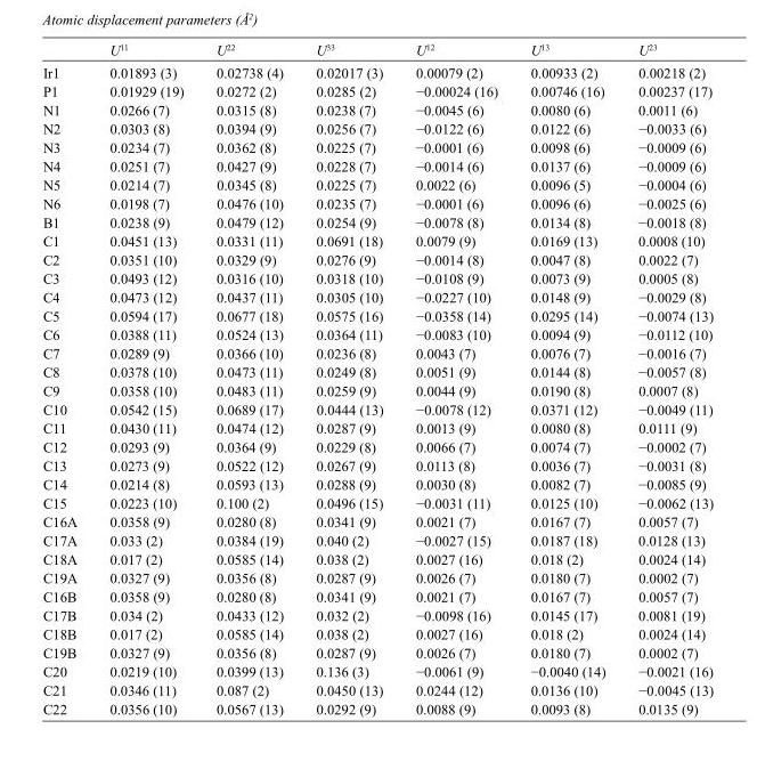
<table><thead><tr><td></td><td>U<sup>11</sup></td><td>U<sup>22</sup></td><td>U<sup>33</sup></td><td>U<sup>12</sup></td><td>U<sup>13</sup></td><td>U<sup>23</sup></td></tr></thead><tbody><tr><td>Ir1</td><td>0.01893 (3)</td><td>0.02738 (4)</td><td>0.02017 (3)</td><td>0.00079 (2)</td><td>0.00933 (2)</td><td>0.00218 (2)</td></tr><tr><td>P1</td><td>0.01929 (19)</td><td>0.0272 (2)</td><td>0.0285 (2)</td><td>−0.00024 (16)</td><td>0.00746 (16)</td><td>0.00237 (17)</td></tr><tr><td>N1</td><td>0.0266 (7)</td><td>0.0315 (8)</td><td>0.0238 (7)</td><td>−0.0045 (6)</td><td>0.0080 (6)</td><td>0.0011 (6)</td></tr><tr><td>N2</td><td>0.0303 (8)</td><td>0.0394 (9)</td><td>0.0256 (7)</td><td>−0.0122 (6)</td><td>0.0122 (6)</td><td>−0.0033 (6)</td></tr><tr><td>N3</td><td>0.0234 (7)</td><td>0.0362 (8)</td><td>0.0225 (7)</td><td>−0.0001 (6)</td><td>0.0098 (6)</td><td>−0.0009 (6)</td></tr><tr><td>N4</td><td>0.0251 (7)</td><td>0.0427 (9)</td><td>0.0228 (7)</td><td>−0.0014 (6)</td><td>0.0137 (6)</td><td>−0.0009 (6)</td></tr><tr><td>N5</td><td>0.0214 (7)</td><td>0.0345 (8)</td><td>0.0225 (7)</td><td>0.0022 (6)</td><td>0.0096 (5)</td><td>−0.0004 (6)</td></tr><tr><td>N6</td><td>0.0198 (7)</td><td>0.0476 (10)</td><td>0.0235 (7)</td><td>−0.0001 (6)</td><td>0.0096 (6)</td><td>−0.0025 (6)</td></tr><tr><td>B1</td><td>0.0238 (9)</td><td>0.0479 (12)</td><td>0.0254 (9)</td><td>−0.0078 (8)</td><td>0.0134 (8)</td><td>−0.0018 (8)</td></tr><tr><td>C1</td><td>0.0451 (13)</td><td>0.0331 (11)</td><td>0.0691 (18)</td><td>0.0079 (9)</td><td>0.0169 (13)</td><td>0.0008 (10)</td></tr><tr><td>C2</td><td>0.0351 (10)</td><td>0.0329 (9)</td><td>0.0276 (9)</td><td>−0.0014 (8)</td><td>0.0047 (8)</td><td>0.0022 (7)</td></tr><tr><td>C3</td><td>0.0493 (12)</td><td>0.0316 (10)</td><td>0.0318 (10)</td><td>−0.0108 (9)</td><td>0.0073 (9)</td><td>0.0005 (8)</td></tr><tr><td>C4</td><td>0.0473 (12)</td><td>0.0437 (11)</td><td>0.0305 (10)</td><td>−0.0227 (10)</td><td>0.0148 (9)</td><td>−0.0029 (8)</td></tr><tr><td>C5</td><td>0.0594 (17)</td><td>0.0677 (18)</td><td>0.0575 (16)</td><td>−0.0358 (14)</td><td>0.0295 (14)</td><td>−0.0074 (13)</td></tr><tr><td>C6</td><td>0.0388 (11)</td><td>0.0524 (13)</td><td>0.0364 (11)</td><td>−0.0083 (10)</td><td>0.0094 (9)</td><td>−0.0112 (10)</td></tr><tr><td>C7</td><td>0.0289 (9)</td><td>0.0366 (10)</td><td>0.0236 (8)</td><td>0.0043 (7)</td><td>0.0076 (7)</td><td>−0.0016 (7)</td></tr><tr><td>C8</td><td>0.0378 (10)</td><td>0.0473 (11)</td><td>0.0249 (8)</td><td>0.0051 (9)</td><td>0.0144 (8)</td><td>−0.0057 (8)</td></tr><tr><td>C9</td><td>0.0358 (10)</td><td>0.0483 (11)</td><td>0.0259 (9)</td><td>0.0044 (9)</td><td>0.0190 (8)</td><td>0.0007 (8)</td></tr><tr><td>C10</td><td>0.0542 (15)</td><td>0.0689 (17)</td><td>0.0444 (13)</td><td>−0.0078 (12)</td><td>0.0371 (12)</td><td>−0.0049 (11)</td></tr><tr><td>C11</td><td>0.0430 (11)</td><td>0.0474 (12)</td><td>0.0287 (9)</td><td>0.0013 (9)</td><td>0.0080 (8)</td><td>0.0111 (9)</td></tr><tr><td>C12</td><td>0.0293 (9)</td><td>0.0364 (9)</td><td>0.0229 (8)</td><td>0.0066 (7)</td><td>0.0074 (7)</td><td>−0.0002 (7)</td></tr><tr><td>C13</td><td>0.0273 (9)</td><td>0.0522 (12)</td><td>0.0267 (9)</td><td>0.0113 (8)</td><td>0.0036 (7)</td><td>−0.0031 (8)</td></tr><tr><td>C14</td><td>0.0214 (8)</td><td>0.0593 (13)</td><td>0.0288 (9)</td><td>0.0030 (8)</td><td>0.0082 (7)</td><td>−0.0085 (9)</td></tr><tr><td>C15</td><td>0.0223 (10)</td><td>0.100 (2)</td><td>0.0496 (15)</td><td>−0.0031 (11)</td><td>0.0125 (10)</td><td>−0.0062 (13)</td></tr><tr><td>C16A</td><td>0.0358 (9)</td><td>0.0280 (8)</td><td>0.0341 (9)</td><td>0.0021 (7)</td><td>0.0167 (7)</td><td>0.0057 (7)</td></tr><tr><td>C17A</td><td>0.033 (2)</td><td>0.0384 (19)</td><td>0.040 (2)</td><td>−0.0027 (15)</td><td>0.0187 (18)</td><td>0.0128 (13)</td></tr><tr><td>C18A</td><td>0.017 (2)</td><td>0.0585 (14)</td><td>0.038 (2)</td><td>0.0027 (16)</td><td>0.018 (2)</td><td>0.0024 (14)</td></tr><tr><td>C19A</td><td>0.0327 (9)</td><td>0.0356 (8)</td><td>0.0287 (9)</td><td>0.0026 (7)</td><td>0.0180 (7)</td><td>0.0002 (7)</td></tr><tr><td>C16B</td><td>0.0358 (9)</td><td>0.0280 (8)</td><td>0.0341 (9)</td><td>0.0021 (7)</td><td>0.0167 (7)</td><td>0.0057 (7)</td></tr><tr><td>C17B</td><td>0.034 (2)</td><td>0.0433 (12)</td><td>0.032 (2)</td><td>−0.0098 (16)</td><td>0.0145 (17)</td><td>0.0081 (19)</td></tr><tr><td>C18B</td><td>0.017 (2)</td><td>0.0585 (14)</td><td>0.038 (2)</td><td>0.0027 (16)</td><td>0.018 (2)</td><td>0.0024 (14)</td></tr><tr><td>C19B</td><td>0.0327 (9)</td><td>0.0356 (8)</td><td>0.0287 (9)</td><td>0.0026 (7)</td><td>0.0180 (7)</td><td>0.0002 (7)</td></tr><tr><td>C20</td><td>0.0219 (10)</td><td>0.0399 (13)</td><td>0.136 (3)</td><td>−0.0061 (9)</td><td>−0.0040 (14)</td><td>−0.0021 (16)</td></tr><tr><td>C21</td><td>0.0346 (11)</td><td>0.087 (2)</td><td>0.0450 (13)</td><td>0.0244 (12)</td><td>0.0136 (10)</td><td>−0.0045 (13)</td></tr><tr><td>C22</td><td>0.0356 (10)</td><td>0.0567 (13)</td><td>0.0292 (9)</td><td>0.0088 (9)</td><td>0.0093 (8)</td><td>0.0135 (9)</td></tr></tbody></table>